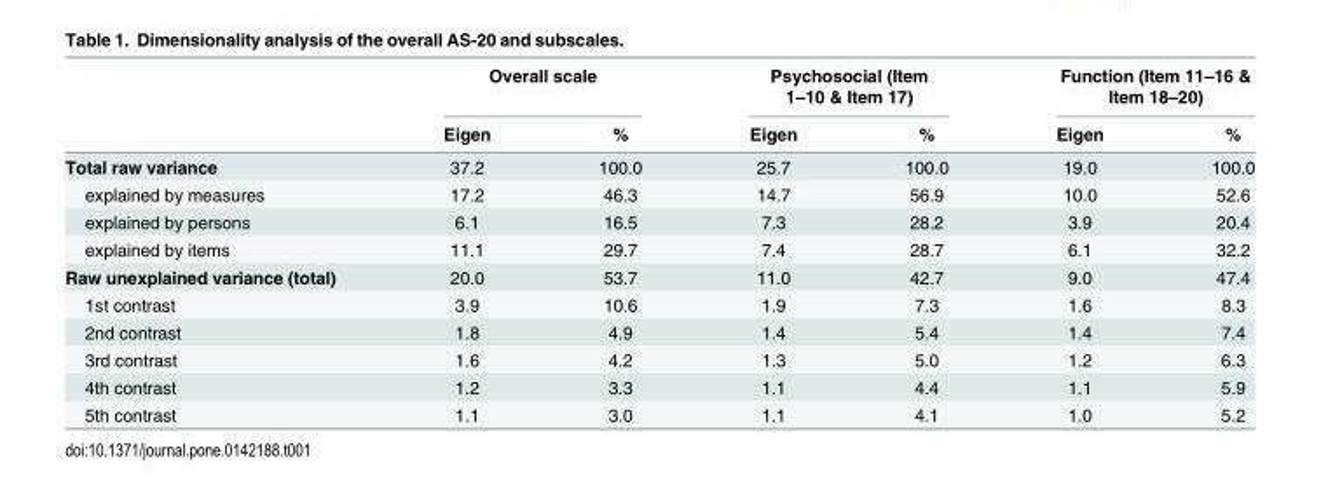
<table><thead><tr><td rowspan="2"></td><td colspan="2">Overall scale</td><td colspan="2">Psychosocial (Item 1–10 &amp; Item 17)</td><td colspan="2">Function (Item 11–16 &amp; Item 18–20)</td></tr><tr><td>Eigen</td><td>%</td><td>Eigen</td><td>%</td><td>Eigen</td><td>%</td></tr></thead><tbody><tr><td>Total raw variance</td><td>37.2</td><td>100.0</td><td>25.7</td><td>100.0</td><td>19.0</td><td>100.0</td></tr><tr><td>explained by measures</td><td>17.2</td><td>46.3</td><td>14.7</td><td>56.9</td><td>10.0</td><td>52.6</td></tr><tr><td>explained by persons</td><td>6.1</td><td>16.5</td><td>7.3</td><td>28.2</td><td>3.9</td><td>20.4</td></tr><tr><td>explained by items</td><td>11.1</td><td>29.7</td><td>7.4</td><td>28.7</td><td>6.1</td><td>32.2</td></tr><tr><td>Raw unexplained variance (total)</td><td>20.0</td><td>53.7</td><td>11.0</td><td>42.7</td><td>9.0</td><td>47.4</td></tr><tr><td>1st contrast</td><td>3.9</td><td>10.6</td><td>1.9</td><td>7.3</td><td>1.6</td><td>8.3</td></tr><tr><td>2nd contrast</td><td>1.8</td><td>4.9</td><td>1.4</td><td>5.4</td><td>1.4</td><td>7.4</td></tr><tr><td>3rd contrast</td><td>1.6</td><td>4.2</td><td>1.3</td><td>5.0</td><td>1.2</td><td>6.3</td></tr><tr><td>4th contrast</td><td>1.2</td><td>3.3</td><td>1.1</td><td>4.4</td><td>1.1</td><td>5.9</td></tr><tr><td>5th contrast</td><td>1.1</td><td>3.0</td><td>1.1</td><td>4.1</td><td>1.0</td><td>5.2</td></tr></tbody></table>